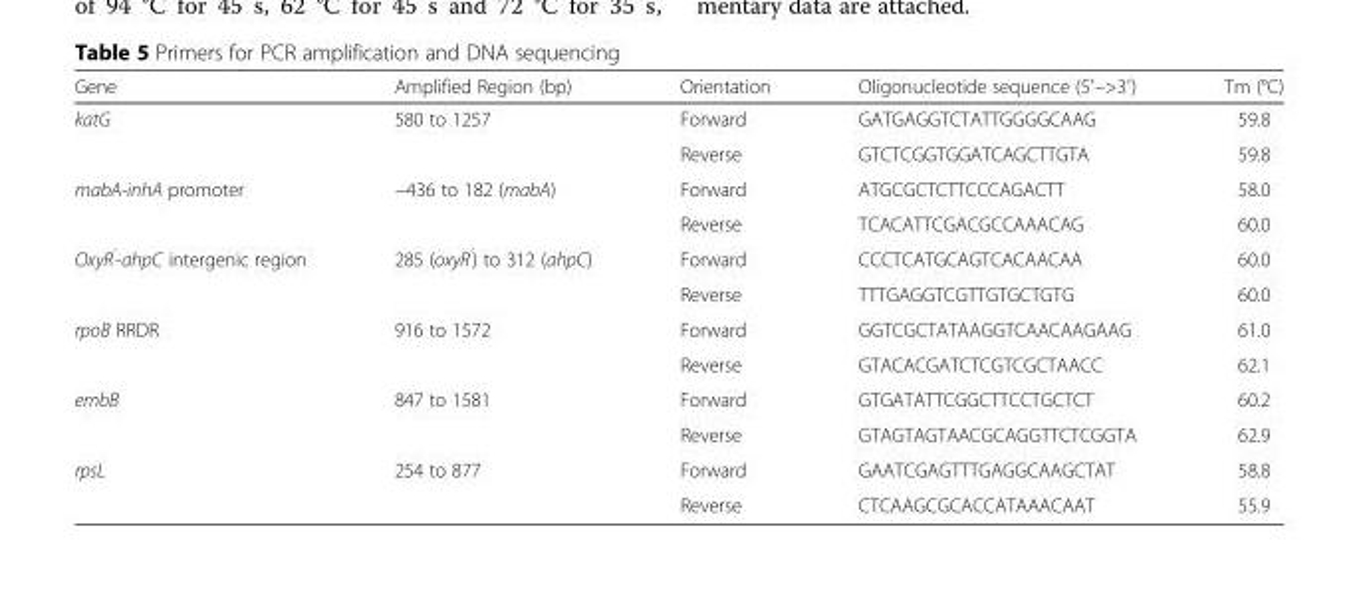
<table><thead><tr><td>Gene</td><td>Amplified Region (bp)</td><td>Orientation</td><td>Oligonucleotide sequence (5′–&gt;3′)</td><td>Tm (°C)</td></tr></thead><tbody><tr><td rowspan="2">katG</td><td>580 to 1257</td><td>Forward</td><td>GATGAGGTCTATTGGGGCAAG</td><td>59.8</td></tr><tr><td></td><td>Reverse</td><td>GTCTCGGTGGATCAGCTTGTA</td><td>59.8</td></tr><tr><td rowspan="2">mabA-inhA promoter</td><td>−436 to 182 (mabA)</td><td>Forward</td><td>ATGCGCTCTTCCCAGACTT</td><td>58.0</td></tr><tr><td></td><td>Reverse</td><td>TCACATTCGACGCCAAACAG</td><td>60.0</td></tr><tr><td rowspan="2">OxyR<sup>’</sup>-ahpC intergenic region</td><td>285 (oxyR<sup>’</sup>) to 312 (ahpC)</td><td>Forward</td><td>CCCTCATGCAGTCACAACAA</td><td>60.0</td></tr><tr><td></td><td>Reverse</td><td>TTTGAGGTCGTTGTGCTGTG</td><td>60.0</td></tr><tr><td rowspan="2">rpoB RRDR</td><td>916 to 1572</td><td>Forward</td><td>GGTCGCTATAAGGTCAACAAGAAG</td><td>61.0</td></tr><tr><td></td><td>Reverse</td><td>GTACACGATCTCGTCGCTAACC</td><td>62.1</td></tr><tr><td rowspan="2">embB</td><td>847 to 1581</td><td>Forward</td><td>GTGATATTCGGCTTCCTGCTCT</td><td>60.2</td></tr><tr><td></td><td>Reverse</td><td>GTAGTAGTAACGCAGGTTCTCGGTA</td><td>62.9</td></tr><tr><td rowspan="2">rpsL</td><td>254 to 877</td><td>Forward</td><td>GAATCGAGTTTGAGGCAAGCTAT</td><td>58.8</td></tr><tr><td></td><td>Reverse</td><td>CTCAAGCGCACCATAAACAAT</td><td>55.9</td></tr></tbody></table>